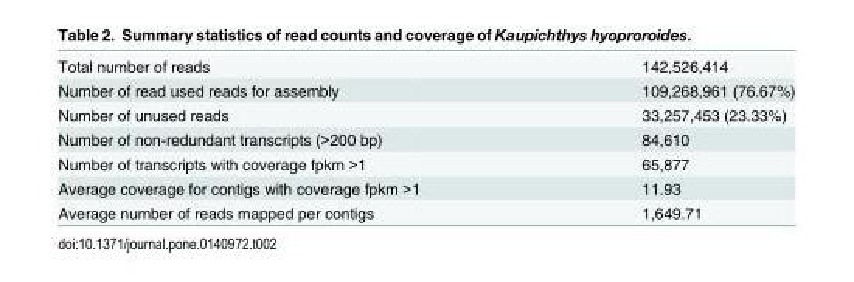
<table><tbody><tr><td>Total number of reads</td><td>142,526,414</td></tr><tr><td>Number of read used reads for assembly</td><td>109,268,961 (76.67%)</td></tr><tr><td>Number of unused reads</td><td>33,257,453 (23.33%)</td></tr><tr><td>Number of non-redundant transcripts (&gt;200 bp)</td><td>84,610</td></tr><tr><td>Number of transcripts with coverage fpkm &gt;1</td><td>65,877</td></tr><tr><td>Average coverage for contigs with coverage fpkm &gt;1</td><td>11.93</td></tr><tr><td>Average number of reads mapped per contigs</td><td>1,649.71</td></tr></tbody></table>